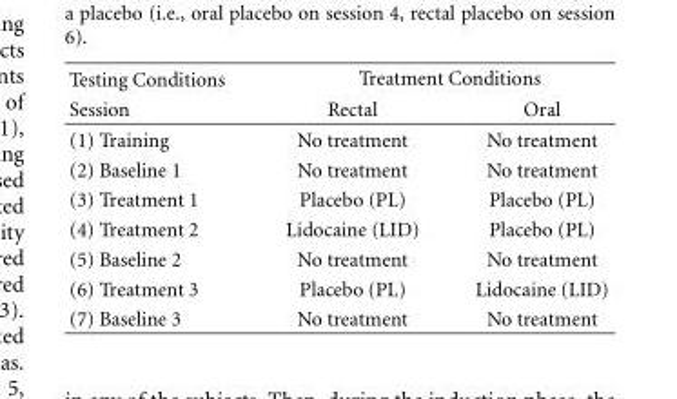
<table><thead><tr><td rowspan="2">Testing Conditions Session</td><td colspan="2">Treatment Conditions</td></tr><tr><td>Rectal</td><td>Oral</td></tr></thead><tbody><tr><td>(1) Training</td><td>No treatment</td><td>No treatment</td></tr><tr><td>(2) Baseline 1</td><td>No treatment</td><td>No treatment</td></tr><tr><td>(3) Treatment 1</td><td>Placebo (PL)</td><td>Placebo (PL)</td></tr><tr><td>(4) Treatment 2</td><td>Lidocaine (LID)</td><td>Placebo (PL)</td></tr><tr><td>(5) Baseline 2</td><td>No treatment</td><td>No treatment</td></tr><tr><td>(6) Treatment 3</td><td>Placebo (PL)</td><td>Lidocaine (LID)</td></tr><tr><td>(7) Baseline 3</td><td>No treatment</td><td>No treatment</td></tr></tbody></table>